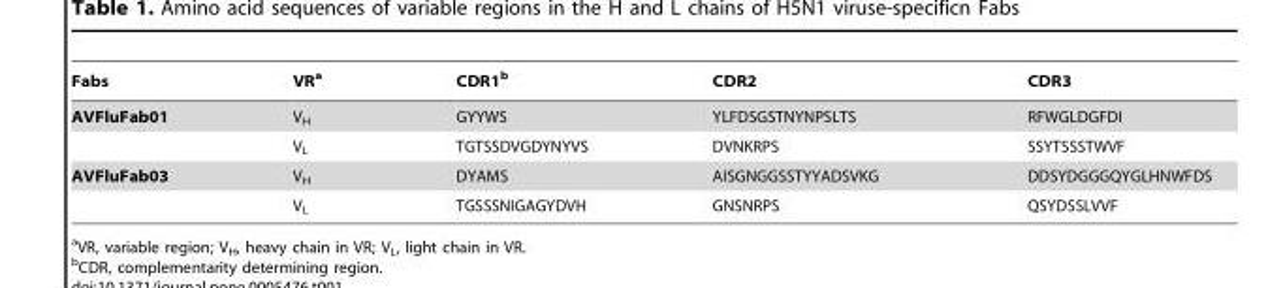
<table><thead><tr><td>Fabs</td><td>VR<sup>a</sup></td><td>CDR1<sup>b</sup></td><td>CDR2</td><td>CDR3</td></tr></thead><tbody><tr><td rowspan="2">AVFluFab01</td><td>V<sub>H</sub></td><td>GYYWS</td><td>YLFDSGSTNYNPSLTS</td><td>RFWGLDGFDI</td></tr><tr><td>V<sub>L</sub></td><td>TGTSSDVGDYNYVS</td><td>DVNKRPS</td><td>SSYTSSSTWVF</td></tr><tr><td rowspan="2">AVFluFab03</td><td>V<sub>H</sub></td><td>DYAMS</td><td>AISGNGGSSTYYADSVKG</td><td>DDSYDGGGQYGLHNWFDS</td></tr><tr><td>V<sub>L</sub></td><td>TGSSSNIGAGYDVH</td><td>GNSNRPS</td><td>QSYDSSLVVF</td></tr></tbody></table>